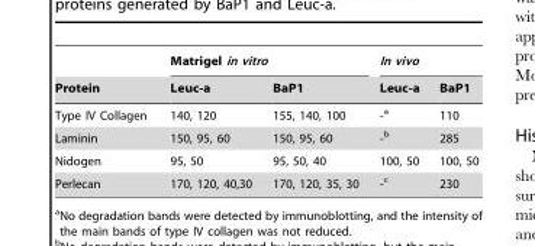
<table><thead><tr><td rowspan="2">Protein</td><td colspan="2">Matrigel in vitro</td><td colspan="2">In vivo</td></tr><tr><td>Leuc-a</td><td>BaP1</td><td>Leuc-a</td><td>BaP1</td></tr></thead><tbody><tr><td>Type IV Collagen</td><td>140, 120</td><td>155, 140, 100</td><td>-a</td><td>110</td></tr><tr><td>Laminin</td><td>150, 95, 60</td><td>150, 95, 60</td><td>-b</td><td>285</td></tr><tr><td>Nidogen</td><td>95, 50</td><td>95, 50, 40</td><td>100, 50</td><td>100, 50</td></tr><tr><td>Perlecan</td><td>170, 120, 40,30</td><td>170, 120, 35, 30</td><td>-c</td><td>230</td></tr></tbody></table>